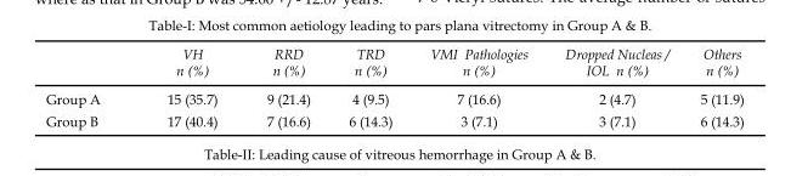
<table><thead><tr><td></td><td>VH n (%)</td><td>RRD n (%)</td><td>TRD n (%)</td><td>VMI Pathologies n (%)</td><td>Dropped Nucleas / IOL n (%)</td><td>Others n (%)</td></tr></thead><tbody><tr><td>Group A</td><td>15 (35.7)</td><td>9 (21.4)</td><td>4 (9.5)</td><td>7 (16.6)</td><td>2 (4.7)</td><td>5 (11.9)</td></tr><tr><td>Group B</td><td>17 (40.4)</td><td>7 (16.6)</td><td>6 (14.3)</td><td>3 (7.1)</td><td>3 (7.1)</td><td>6 (14.3)</td></tr></tbody></table>